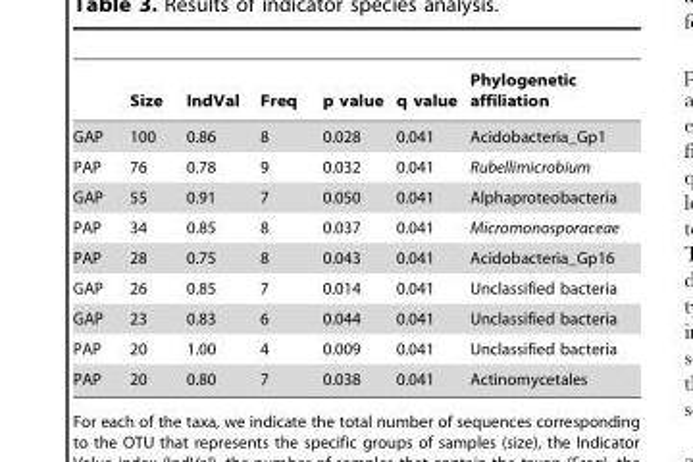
<table><thead><tr><td></td><td>Size</td><td>IndVal</td><td>Freq</td><td>p value</td><td>q value</td><td>Phylogenetic affiliation</td></tr></thead><tbody><tr><td>GAP</td><td>100</td><td>0.86</td><td>8</td><td>0.028</td><td>0.041</td><td>Acidobacteria_Gp1</td></tr><tr><td>PAP</td><td>76</td><td>0.78</td><td>9</td><td>0.032</td><td>0.041</td><td>Rubellimicrobium</td></tr><tr><td>GAP</td><td>55</td><td>0.91</td><td>7</td><td>0.050</td><td>0.041</td><td>Alphaproteobacteria</td></tr><tr><td>PAP</td><td>34</td><td>0.85</td><td>8</td><td>0.037</td><td>0.041</td><td>Micromonosporaceae</td></tr><tr><td>PAP</td><td>28</td><td>0.75</td><td>8</td><td>0.043</td><td>0.041</td><td>Acidobacteria_Gp16</td></tr><tr><td>GAP</td><td>26</td><td>0.85</td><td>7</td><td>0.014</td><td>0.041</td><td>Unclassified bacteria</td></tr><tr><td>GAP</td><td>23</td><td>0.83</td><td>6</td><td>0.044</td><td>0.041</td><td>Unclassified bacteria</td></tr><tr><td>PAP</td><td>20</td><td>1.00</td><td>4</td><td>0.009</td><td>0.041</td><td>Unclassified bacteria</td></tr><tr><td>PAP</td><td>20</td><td>0.80</td><td>7</td><td>0.038</td><td>0.041</td><td>Actinomycetales</td></tr></tbody></table>